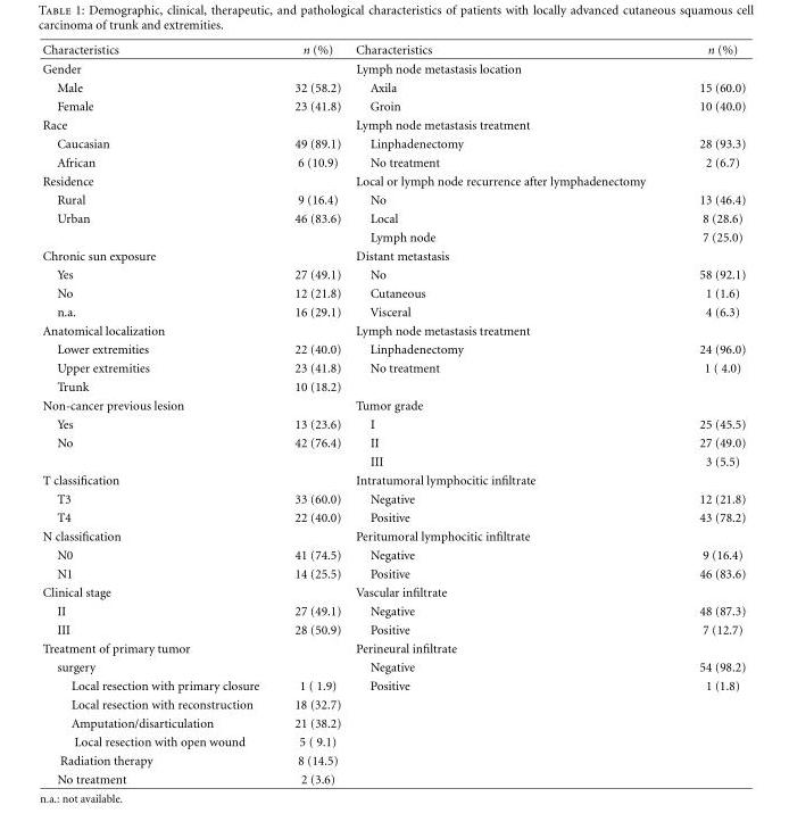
<table><thead><tr><td>Characteristics</td><td>n (%)</td><td>Characteristics</td><td>n (%)</td></tr></thead><tbody><tr><td>Gender</td><td></td><td>Lymph node metastasis location</td><td></td></tr><tr><td>Male</td><td>32 (58.2)</td><td>Axila</td><td>15 (60.0)</td></tr><tr><td>Female</td><td>23 (41.8)</td><td>Groin</td><td>10 (40.0)</td></tr><tr><td>Race</td><td></td><td>Lymph node metastasis treatment</td><td></td></tr><tr><td>Caucasian</td><td>49 (89.1)</td><td>Linphadenectomy</td><td>28 (93.3)</td></tr><tr><td>African</td><td>6 (10.9)</td><td>No treatment</td><td>2 (6.7)</td></tr><tr><td>Residence</td><td></td><td>Local or lymph node recurrence after lymphadenectomy</td><td></td></tr><tr><td>Rural</td><td>9 (16.4)</td><td>No</td><td>13 (46.4)</td></tr><tr><td rowspan="2">Urban</td><td>46 (83.6)</td><td>Local</td><td>8 (28.6)</td></tr><tr><td></td><td>Lymph node</td><td>7 (25.0)</td></tr><tr><td>Chronic sun exposure</td><td></td><td>Distant metastasis</td><td></td></tr><tr><td>Yes</td><td>27 (49.1)</td><td>No</td><td>58 (92.1)</td></tr><tr><td>No</td><td>12 (21.8)</td><td>Cutaneous</td><td>1 (1.6)</td></tr><tr><td>n.a.</td><td>16 (29.1)</td><td>Visceral</td><td>4 (6.3)</td></tr><tr><td>Anatomical localization</td><td></td><td>Lymph node metastasis treatment</td><td></td></tr><tr><td>Lower extremities</td><td>22 (40.0)</td><td>Linphadenectomy</td><td>24 (96.0)</td></tr><tr><td>Upper extremities</td><td>23 (41.8)</td><td>No treatment</td><td>1 ( 4.0)</td></tr><tr><td>Trunk</td><td>10 (18.2)</td><td></td><td></td></tr><tr><td>Non-cancer previous lesion</td><td></td><td>Tumor grade</td><td></td></tr><tr><td>Yes</td><td>13 (23.6)</td><td>I</td><td>25 (45.5)</td></tr><tr><td rowspan="2">No</td><td>42 (76.4)</td><td>II</td><td>27 (49.0)</td></tr><tr><td></td><td>III</td><td>3 (5.5)</td></tr><tr><td>T classification</td><td></td><td>Intratumoral lymphocitic infiltrate</td><td></td></tr><tr><td>T3</td><td>33 (60.0)</td><td>Negative</td><td>12 (21.8)</td></tr><tr><td>T4</td><td>22 (40.0)</td><td>Positive</td><td>43 (78.2)</td></tr><tr><td>N classification</td><td></td><td>Peritumoral lymphocitic infiltrate</td><td></td></tr><tr><td>N0</td><td>41 (74.5)</td><td>Negative</td><td>9 (16.4)</td></tr><tr><td>N1</td><td>14 (25.5)</td><td>Positive</td><td>46 (83.6)</td></tr><tr><td>Clinical stage</td><td></td><td>Vascular infiltrate</td><td></td></tr><tr><td>II</td><td>27 (49.1)</td><td>Negative</td><td>48 (87.3)</td></tr><tr><td>III</td><td>28 (50.9)</td><td>Positive</td><td>7 (12.7)</td></tr><tr><td>Treatment of primary tumor</td><td></td><td>Perineural infiltrate</td><td></td></tr><tr><td>surgery</td><td></td><td>Negative</td><td>54 (98.2)</td></tr><tr><td>Local resection with primary closure</td><td>1 ( 1.9)</td><td>Positive</td><td>1 (1.8)</td></tr><tr><td>Local resection with reconstruction</td><td>18 (32.7)</td><td></td><td></td></tr><tr><td>Amputation/disarticulation</td><td>21 (38.2)</td><td></td><td></td></tr><tr><td>Local resection with open wound</td><td>5 ( 9.1)</td><td></td><td></td></tr><tr><td>Radiation therapy</td><td>8 (14.5)</td><td></td><td></td></tr><tr><td>No treatment</td><td>2 (3.6)</td><td></td><td></td></tr></tbody></table>